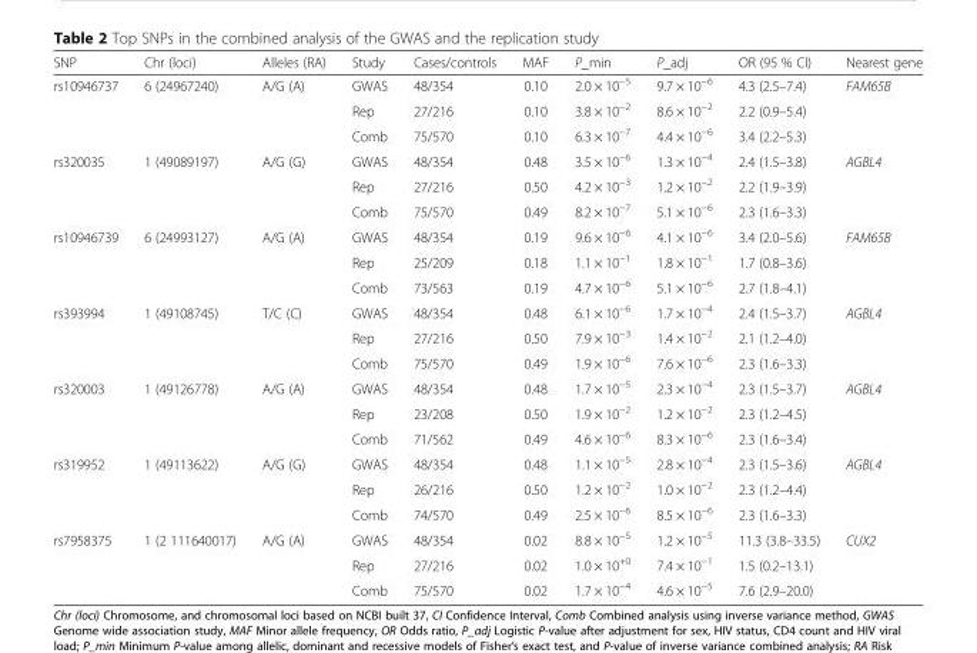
<table><thead><tr><td>SNP</td><td>Chr (loci)</td><td>Alleles (RA)</td><td>Study</td><td>Cases/controls</td><td>MAF</td><td>P_min</td><td>P_adj</td><td>OR (95 % CI)</td><td>Nearest gene</td></tr></thead><tbody><tr><td rowspan="3">rs10946737</td><td rowspan="3">6 (24967240)</td><td rowspan="3">A/G (A)</td><td>GWAS</td><td>48/354</td><td>0.10</td><td>2.0 × 10<sup>−5</sup></td><td>9.7 × 10<sup>−6</sup></td><td>4.3 (2.5–7.4)</td><td rowspan="3">FAM65B</td></tr><tr><td>Rep</td><td>27/216</td><td>0.10</td><td>3.8 × 10<sup>−2</sup></td><td>8.6 × 10<sup>−2</sup></td><td>2.2 (0.9–5.4)</td></tr><tr><td>Comb</td><td>75/570</td><td>0.10</td><td>6.3 × 10<sup>−7</sup></td><td>4.4 × 10<sup>−6</sup></td><td>3.4 (2.2–5.3)</td></tr><tr><td rowspan="3">rs320035</td><td rowspan="3">1 (49089197)</td><td rowspan="3">A/G (G)</td><td>GWAS</td><td>48/354</td><td>0.48</td><td>3.5 × 10<sup>−6</sup></td><td>1.3 × 10<sup>−4</sup></td><td>2.4 (1.5–3.8)</td><td rowspan="3">AGBL4</td></tr><tr><td>Rep</td><td>27/216</td><td>0.50</td><td>4.2 × 10<sup>−3</sup></td><td>1.2 × 10<sup>−2</sup></td><td>2.2 (1.9–3.9)</td></tr><tr><td>Comb</td><td>75/570</td><td>0.49</td><td>8.2 × 10<sup>−7</sup></td><td>5.1 × 10<sup>−6</sup></td><td>2.3 (1.6–3.3)</td></tr><tr><td rowspan="3">rs10946739</td><td rowspan="3">6 (24993127)</td><td rowspan="3">A/G (A)</td><td>GWAS</td><td>48/354</td><td>0.19</td><td>9.6 × 10<sup>−6</sup></td><td>4.1 × 10<sup>−6</sup></td><td>3.4 (2.0–5.6)</td><td rowspan="3">FAM65B</td></tr><tr><td>Rep</td><td>25/209</td><td>0.18</td><td>1.1 × 10<sup>−1</sup></td><td>1.8 × 10<sup>−1</sup></td><td>1.7 (0.8–3.6)</td></tr><tr><td>Comb</td><td>73/563</td><td>0.19</td><td>4.7 × 10<sup>−6</sup></td><td>5.1 × 10<sup>−6</sup></td><td>2.7 (1.8–4.1)</td></tr><tr><td rowspan="3">rs393994</td><td rowspan="3">1 (49108745)</td><td rowspan="3">T/C (C)</td><td>GWAS</td><td>48/354</td><td>0.48</td><td>6.1 × 10<sup>−6</sup></td><td>1.7 × 10<sup>−4</sup></td><td>2.4 (1.5–3.7)</td><td rowspan="3">AGBL4</td></tr><tr><td>Rep</td><td>27/216</td><td>0.50</td><td>7.9 × 10<sup>−3</sup></td><td>1.4 × 10<sup>−2</sup></td><td>2.1 (1.2–4.0)</td></tr><tr><td>Comb</td><td>75/570</td><td>0.49</td><td>1.9 × 10<sup>−6</sup></td><td>7.6 × 10<sup>−6</sup></td><td>2.3 (1.6–3.3)</td></tr><tr><td rowspan="3">rs320003</td><td rowspan="3">1 (49126778)</td><td rowspan="3">A/G (A)</td><td>GWAS</td><td>48/354</td><td>0.48</td><td>1.7 × 10<sup>−5</sup></td><td>2.3 × 10<sup>−4</sup></td><td>2.3 (1.5–3.7)</td><td rowspan="3">AGBL4</td></tr><tr><td>Rep</td><td>23/208</td><td>0.50</td><td>1.9 × 10<sup>−2</sup></td><td>1.2 × 10<sup>−2</sup></td><td>2.3 (1.2–4.5)</td></tr><tr><td>Comb</td><td>71/562</td><td>0.49</td><td>4.6 × 10<sup>−6</sup></td><td>8.3 × 10<sup>−6</sup></td><td>2.3 (1.6–3.4)</td></tr><tr><td rowspan="3">rs319952</td><td rowspan="3">1 (49113622)</td><td rowspan="3">A/G (G)</td><td>GWAS</td><td>48/354</td><td>0.48</td><td>1.1 × 10<sup>−5</sup></td><td>2.8 × 10<sup>−4</sup></td><td>2.3 (1.5–3.6)</td><td rowspan="3">AGBL4</td></tr><tr><td>Rep</td><td>26/216</td><td>0.50</td><td>1.2 × 10<sup>−2</sup></td><td>1.0 × 10<sup>−2</sup></td><td>2.3 (1.2–4.4)</td></tr><tr><td>Comb</td><td>74/570</td><td>0.49</td><td>2.5 × 10<sup>−6</sup></td><td>8.5 × 10<sup>−6</sup></td><td>2.3 (1.6–3.3)</td></tr><tr><td rowspan="3">rs7958375</td><td rowspan="3">1 (2 111640017)</td><td rowspan="3">A/G (A)</td><td>GWAS</td><td>48/354</td><td>0.02</td><td>8.8 × 10<sup>−5</sup></td><td>1.2 × 10<sup>−5</sup></td><td>11.3 (3.8–33.5)</td><td rowspan="3">CUX2</td></tr><tr><td>Rep</td><td>27/216</td><td>0.02</td><td>1.0 × 10<sup>+0</sup></td><td>7.4 × 10<sup>−1</sup></td><td>1.5 (0.2–13.1)</td></tr><tr><td>Comb</td><td>75/570</td><td>0.02</td><td>1.7 × 10<sup>−4</sup></td><td>4.6 × 10<sup>−5</sup></td><td>7.6 (2.9–20.0)</td></tr></tbody></table>